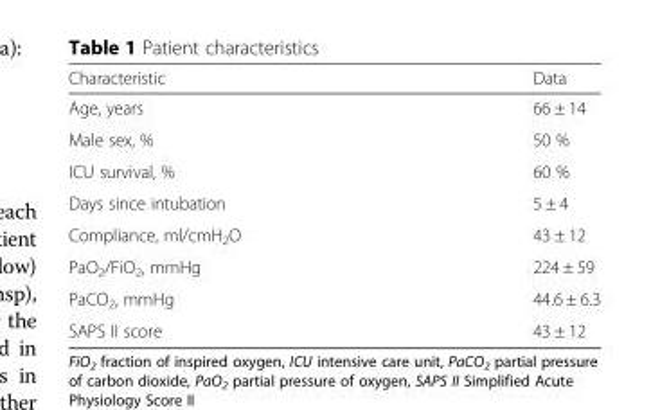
<table><thead><tr><td>Characteristic</td><td>Data</td></tr></thead><tbody><tr><td>Age, years</td><td>66 ± 14</td></tr><tr><td>Male sex, %</td><td>50 %</td></tr><tr><td>ICU survival, %</td><td>60 %</td></tr><tr><td>Days since intubation</td><td>5 ± 4</td></tr><tr><td>Compliance, ml/cmH<sub>2</sub>O</td><td>43 ± 12</td></tr><tr><td>PaO<sub>2</sub>/FiO<sub>2</sub>, mmHg</td><td>224 ± 59</td></tr><tr><td>PaCO<sub>2</sub>, mmHg</td><td>44.6 ± 6.3</td></tr><tr><td>SAPS II score</td><td>43 ± 12</td></tr></tbody></table>